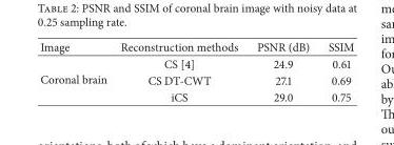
<table><thead><tr><td>Image</td><td>Reconstruction methods</td><td>PSNR (dB)</td><td>SSIM</td></tr></thead><tbody><tr><td rowspan="3">Coronal brain</td><td>CS [4]</td><td>24.9</td><td>0.61</td></tr><tr><td>CS DT-CWT</td><td>27.1</td><td>0.69</td></tr><tr><td>iCS</td><td>29.0</td><td>0.75</td></tr></tbody></table>